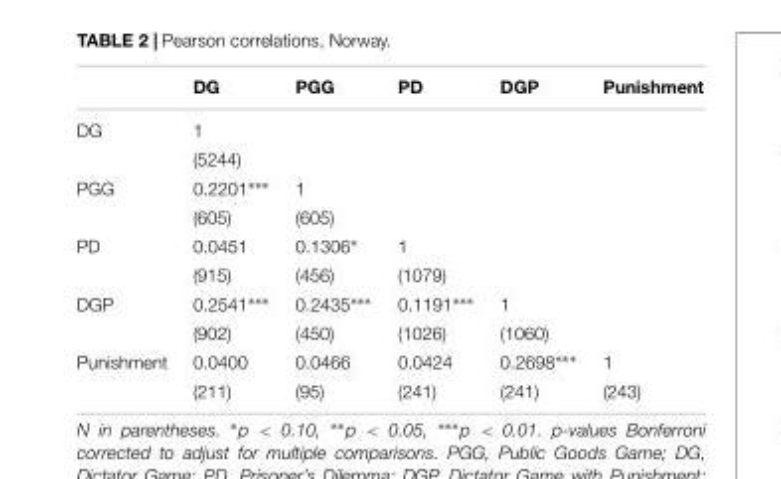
<table><thead><tr><td></td><td>DG</td><td>PGG</td><td>PD</td><td>DGP</td><td>Punishment</td></tr></thead><tbody><tr><td rowspan="2">DG</td><td>1</td><td></td><td></td><td></td><td></td></tr><tr><td>(5244)</td><td></td><td></td><td></td><td></td></tr><tr><td rowspan="2">PGG</td><td>0.2201∗∗∗</td><td>1</td><td></td><td></td><td></td></tr><tr><td>(605)</td><td>(605)</td><td></td><td></td><td></td></tr><tr><td rowspan="2">PD</td><td>0.0451</td><td>0.1306∗</td><td>1</td><td></td><td></td></tr><tr><td>(915)</td><td>(456)</td><td>(1079)</td><td></td><td></td></tr><tr><td rowspan="2">DGP</td><td>0.2541∗∗∗</td><td>0.2435∗∗∗</td><td>0.1191∗∗∗</td><td>1</td><td></td></tr><tr><td>(902)</td><td>(450)</td><td>(1026)</td><td>(1060)</td><td></td></tr><tr><td rowspan="2">Punishment</td><td>0.0400</td><td>0.0466</td><td>0.0424</td><td>0.2698∗∗∗</td><td>1</td></tr><tr><td>(211)</td><td>(95)</td><td>(241)</td><td>(241)</td><td>(243)</td></tr></tbody></table>